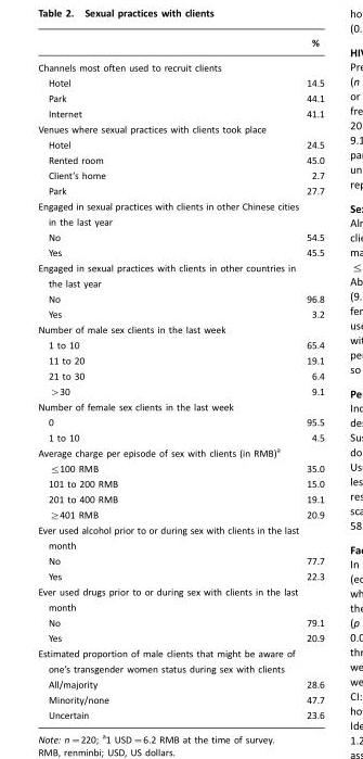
<table><thead><tr><td></td><td>%</td></tr></thead><tbody><tr><td colspan="2">Channels most often used to recruit clients</td></tr><tr><td>Hotel</td><td>14.5</td></tr><tr><td>Park</td><td>44.1</td></tr><tr><td>Internet</td><td>41.1</td></tr><tr><td colspan="2">Venues where sexual practices with clients took place</td></tr><tr><td>Hotel</td><td>24.5</td></tr><tr><td>Rented room</td><td>45.0</td></tr><tr><td>Client’s home</td><td>2.7</td></tr><tr><td>Park</td><td>27.7</td></tr><tr><td colspan="2">Engaged in sexual practices with clients in other Chinese cities in the last year</td></tr><tr><td>No</td><td>54.5</td></tr><tr><td>Yes</td><td>45.5</td></tr><tr><td colspan="2">Engaged in sexual practices with clients in other countries in the last year</td></tr><tr><td>No</td><td>96.8</td></tr><tr><td>Yes</td><td>3.2</td></tr><tr><td colspan="2">Number of male sex clients in the last week</td></tr><tr><td>1 to 10</td><td>65.4</td></tr><tr><td>11 to 20</td><td>19.1</td></tr><tr><td>21 to 30</td><td>6.4</td></tr><tr><td>&gt;30</td><td>9.1</td></tr><tr><td colspan="2">Number of female sex clients in the last week</td></tr><tr><td>0</td><td>95.5</td></tr><tr><td>1 to 10</td><td>4.5</td></tr><tr><td colspan="2">Average charge per episode of sex with clients (in RMB)<sup>a</sup></td></tr><tr><td>≤100 RMB</td><td>35.0</td></tr><tr><td>101 to 200 RMB</td><td>15.0</td></tr><tr><td>201 to 400 RMB</td><td>19.1</td></tr><tr><td>≥401 RMB</td><td>20.9</td></tr><tr><td colspan="2">Ever used alcohol prior to or during sex with clients in the last month</td></tr><tr><td>No</td><td>77.7</td></tr><tr><td>Yes</td><td>22.3</td></tr><tr><td colspan="2">Ever used drugs prior to or during sex with clients in the last month</td></tr><tr><td>No</td><td>79.1</td></tr><tr><td>Yes</td><td>20.9</td></tr><tr><td colspan="2">Estimated proportion of male clients that might be aware of one’s transgender women status during sex with clients</td></tr><tr><td>All/majority</td><td>28.6</td></tr><tr><td>Minority/none</td><td>47.7</td></tr><tr><td>Uncertain</td><td>23.6</td></tr></tbody></table>